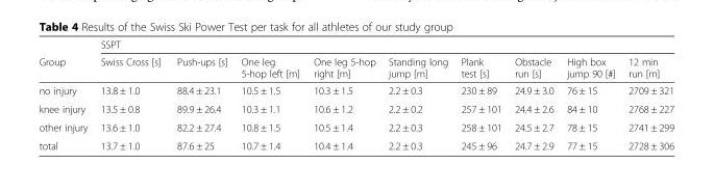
<table><thead><tr><td rowspan="2">Group</td><td colspan="9">SSPT</td></tr><tr><td>Swiss Cross [s]</td><td>Push-ups [s]</td><td>One leg 5-hop left [m]</td><td>One leg 5-hop right [m]</td><td>Standing long jump [m]</td><td>Plank test [s]</td><td>Obstacle run [s]</td><td>High box jump 90 [#]</td><td>12 min run [m]</td></tr></thead><tbody><tr><td>no injury</td><td>13.8 ± 1.0</td><td>88.4 ± 23.1</td><td>10.5 ± 1.5</td><td>10.3 ± 1.5</td><td>2.2 ± 0.3</td><td>230 ± 89</td><td>24.9 ± 3.0</td><td>76 ± 15</td><td>2709 ± 321</td></tr><tr><td>knee injury</td><td>13.5 ± 0.8</td><td>89.9 ± 26.4</td><td>10.3 ± 1.1</td><td>10.6 ± 1.2</td><td>2.2 ± 0.2</td><td>257 ± 101</td><td>24.4 ± 2.6</td><td>84 ± 10</td><td>2768 ± 227</td></tr><tr><td>other injury</td><td>13.6 ± 1.0</td><td>82.2 ± 27.4</td><td>10.8 ± 1.5</td><td>10.5 ± 1.4</td><td>2.2 ± 0.3</td><td>258 ± 101</td><td>24.5 ± 2.7</td><td>78 ± 15</td><td>2741 ± 299</td></tr><tr><td>total</td><td>13.7 ± 1.0</td><td>87.6 ± 25</td><td>10.7 ± 1.4</td><td>10.4 ± 1.4</td><td>2.2 ± 0.3</td><td>245 ± 96</td><td>24.7 ± 2.9</td><td>77 ± 15</td><td>2728 ± 306</td></tr></tbody></table>